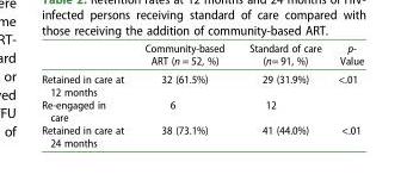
<table><thead><tr><td></td><td>Community-based ART (n = 52, %)</td><td>Standard of care (n= 91, %)</td><td>p- Value</td></tr></thead><tbody><tr><td>Retained in care at 12 months</td><td>32 (61.5%)</td><td>29 (31.9%)</td><td>&lt;.01</td></tr><tr><td>Re-engaged in care</td><td>6</td><td>12</td><td></td></tr><tr><td>Retained in care at 24 months</td><td>38 (73.1%)</td><td>41 (44.0%)</td><td>&lt;.01</td></tr></tbody></table>